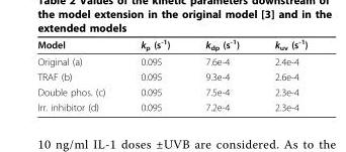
<table><thead><tr><td>Model</td><td>k<sub>p</sub> (s<sup>-1</sup>)</td><td>k<sub>dp</sub> (s<sup>-1</sup>)</td><td>k<sub>uv</sub> (s<sup>-1</sup>)</td></tr></thead><tbody><tr><td>Original (a)</td><td>0.095</td><td>7.6e-4</td><td>2.4e-4</td></tr><tr><td>TRAF (b)</td><td>0.095</td><td>9.3e-4</td><td>2.6e-4</td></tr><tr><td>Double phos. (c)</td><td>0.095</td><td>7.5e-4</td><td>2.3e-4</td></tr><tr><td>Irr. inhibitor (d)</td><td>0.095</td><td>7.2e-4</td><td>2.3e-4</td></tr></tbody></table>